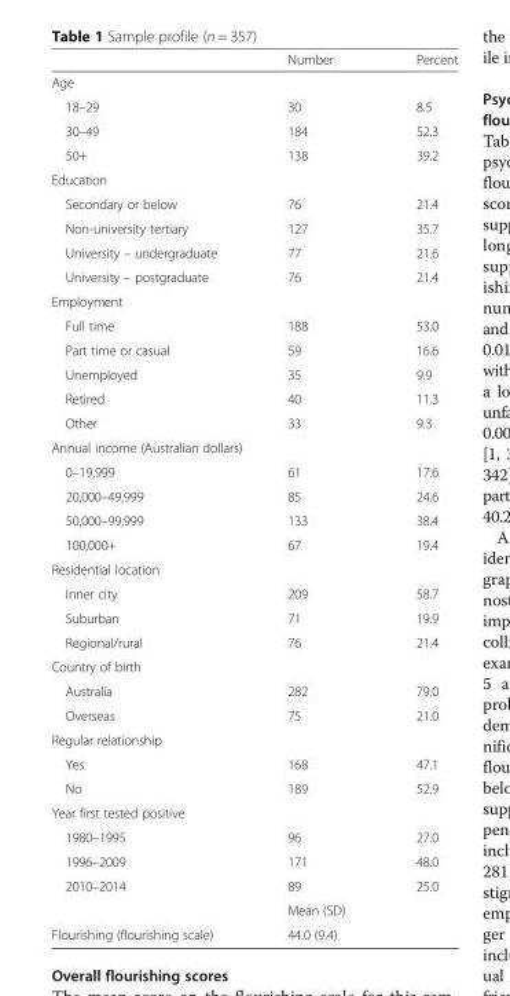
<table><thead><tr><td></td><td>Number</td><td>Percent</td></tr></thead><tbody><tr><td colspan="3">Age</td></tr><tr><td>18–29</td><td>30</td><td>8.5</td></tr><tr><td>30–49</td><td>184</td><td>52.3</td></tr><tr><td>50+</td><td>138</td><td>39.2</td></tr><tr><td colspan="3">Education</td></tr><tr><td>Secondary or below</td><td>76</td><td>21.4</td></tr><tr><td>Non-university tertiary</td><td>127</td><td>35.7</td></tr><tr><td>University – undergraduate</td><td>77</td><td>21.6</td></tr><tr><td>University – postgraduate</td><td>76</td><td>21.4</td></tr><tr><td colspan="3">Employment</td></tr><tr><td>Full time</td><td>188</td><td>53.0</td></tr><tr><td>Part time or casual</td><td>59</td><td>16.6</td></tr><tr><td>Unemployed</td><td>35</td><td>9.9</td></tr><tr><td>Retired</td><td>40</td><td>11.3</td></tr><tr><td>Other</td><td>33</td><td>9.3</td></tr><tr><td colspan="3">Annual income (Australian dollars)</td></tr><tr><td>0–19,999</td><td>61</td><td>17.6</td></tr><tr><td>20,000–49,999</td><td>85</td><td>24.6</td></tr><tr><td>50,000–99,999</td><td>133</td><td>38.4</td></tr><tr><td>100,000+</td><td>67</td><td>19.4</td></tr><tr><td colspan="3">Residential location</td></tr><tr><td>Inner city</td><td>209</td><td>58.7</td></tr><tr><td>Suburban</td><td>71</td><td>19.9</td></tr><tr><td>Regional/rural</td><td>76</td><td>21.4</td></tr><tr><td colspan="3">Country of birth</td></tr><tr><td>Australia</td><td>282</td><td>79.0</td></tr><tr><td>Overseas</td><td>75</td><td>21.0</td></tr><tr><td colspan="3">Regular relationship</td></tr><tr><td>Yes</td><td>168</td><td>47.1</td></tr><tr><td>No</td><td>189</td><td>52.9</td></tr><tr><td colspan="3">Year first tested positive</td></tr><tr><td>1980–1995</td><td>96</td><td>27.0</td></tr><tr><td>1996–2009</td><td>171</td><td>48.0</td></tr><tr><td rowspan="2">2010–2014</td><td>89</td><td>25.0</td></tr><tr><td>Mean (SD)</td><td></td></tr><tr><td>Flourishing (flourishing scale)</td><td>44.0 (9.4)</td><td></td></tr></tbody></table>